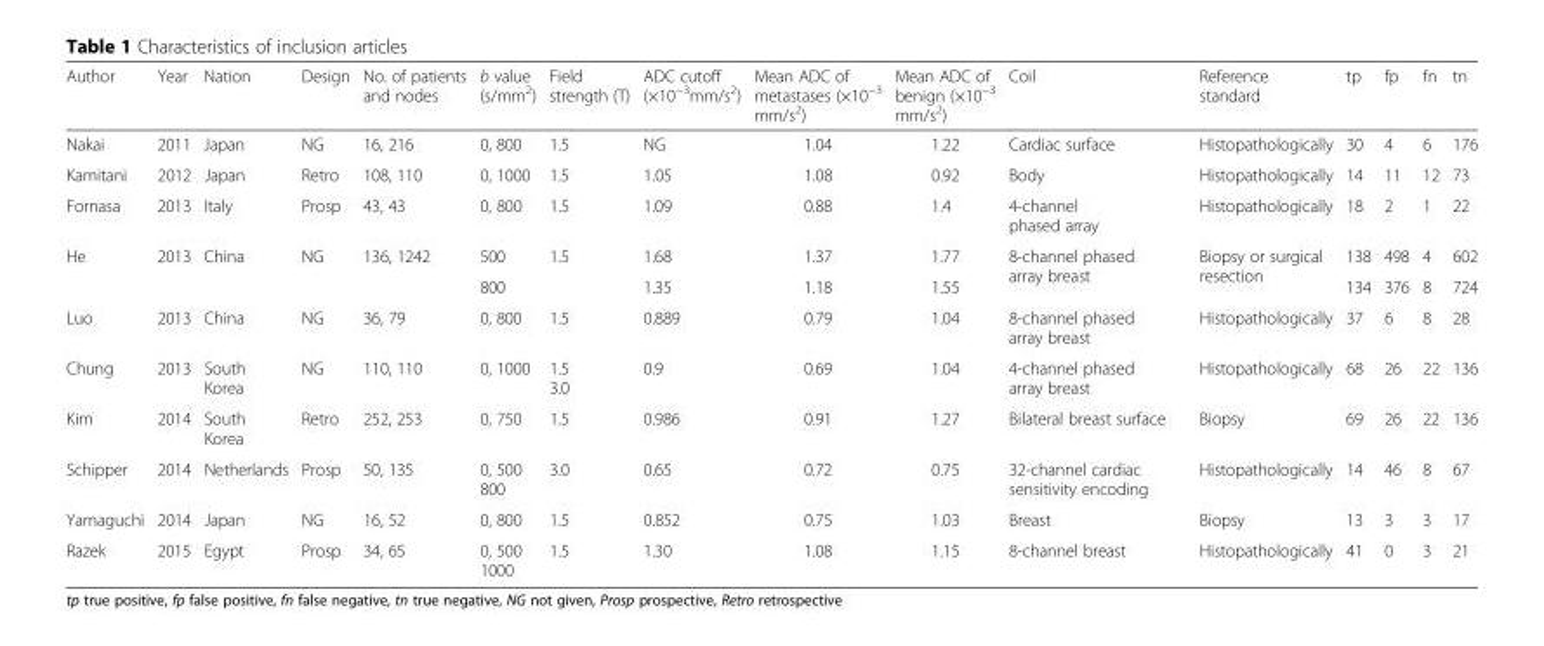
<table><thead><tr><td>Author</td><td>Year</td><td>Nation</td><td>Design</td><td>No. of patients and nodes</td><td>b value (s/mm<sup>2</sup>)</td><td>Field strength (T)</td><td>ADC cutoff (×10<sup>−3</sup>mm/s<sup>2</sup>)</td><td>Mean ADC of metastases (×10<sup>−3</sup> mm/s<sup>2</sup>)</td><td>Mean ADC of benign (×10<sup>−3</sup> mm/s<sup>2</sup>)</td><td>Coil</td><td>Reference standard</td><td>tp</td><td>fp</td><td>fn</td><td>tn</td></tr></thead><tbody><tr><td>Nakai</td><td>2011</td><td>Japan</td><td>NG</td><td>16, 216</td><td>0, 800</td><td>1.5</td><td>NG</td><td>1.04</td><td>1.22</td><td>Cardiac surface</td><td>Histopathologically</td><td>30</td><td>4</td><td>6</td><td>176</td></tr><tr><td>Kamitani</td><td>2012</td><td>Japan</td><td>Retro</td><td>108, 110</td><td>0, 1000</td><td>1.5</td><td>1.05</td><td>1.08</td><td>0.92</td><td>Body</td><td>Histopathologically</td><td>14</td><td>11</td><td>12</td><td>73</td></tr><tr><td>Fornasa</td><td>2013</td><td>Italy</td><td>Prosp</td><td>43, 43</td><td>0, 800</td><td>1.5</td><td>1.09</td><td>0.88</td><td>1.4</td><td>4-channel phased array</td><td>Histopathologically</td><td>18</td><td>2</td><td>1</td><td>22</td></tr><tr><td rowspan="2">He</td><td rowspan="2">2013</td><td rowspan="2">China</td><td rowspan="2">NG</td><td rowspan="2">136, 1242</td><td>500</td><td rowspan="2">1.5</td><td>1.68</td><td>1.37</td><td>1.77</td><td rowspan="2">8-channel phased array breast</td><td rowspan="2">Biopsy or surgical resection</td><td>138</td><td>498</td><td>4</td><td>602</td></tr><tr><td>800</td><td>1.35</td><td>1.18</td><td>1.55</td><td>134</td><td>376</td><td>8</td><td>724</td></tr><tr><td>Luo</td><td>2013</td><td>China</td><td>NG</td><td>36, 79</td><td>0, 800</td><td>1.5</td><td>0.889</td><td>0.79</td><td>1.04</td><td>8-channel phased array breast</td><td>Histopathologically</td><td>37</td><td>6</td><td>8</td><td>28</td></tr><tr><td>Chung</td><td>2013</td><td>South Korea</td><td>NG</td><td>110, 110</td><td>0, 1000</td><td>1.5 3.0</td><td>0.9</td><td>0.69</td><td>1.04</td><td>4-channel phased array breast</td><td>Histopathologically</td><td>68</td><td>26</td><td>22</td><td>136</td></tr><tr><td>Kim</td><td>2014</td><td>South Korea</td><td>Retro</td><td>252, 253</td><td>0, 750</td><td>1.5</td><td>0.986</td><td>0.91</td><td>1.27</td><td>Bilateral breast surface</td><td>Biopsy</td><td>69</td><td>26</td><td>22</td><td>136</td></tr><tr><td>Schipper</td><td>2014</td><td>Netherlands</td><td>Prosp</td><td>50, 135</td><td>0, 500 800</td><td>3.0</td><td>0.65</td><td>0.72</td><td>0.75</td><td>32-channel cardiac sensitivity encoding</td><td>Histopathologically</td><td>14</td><td>46</td><td>8</td><td>67</td></tr><tr><td>Yamaguchi</td><td>2014</td><td>Japan</td><td>NG</td><td>16, 52</td><td>0, 800</td><td>1.5</td><td>0.852</td><td>0.75</td><td>1.03</td><td>Breast</td><td>Biopsy</td><td>13</td><td>3</td><td>3</td><td>17</td></tr><tr><td>Razek</td><td>2015</td><td>Egypt</td><td>Prosp</td><td>34, 65</td><td>0, 500 1000</td><td>1.5</td><td>1.30</td><td>1.08</td><td>1.15</td><td>8-channel breast</td><td>Histopathologically</td><td>41</td><td>0</td><td>3</td><td>21</td></tr></tbody></table>